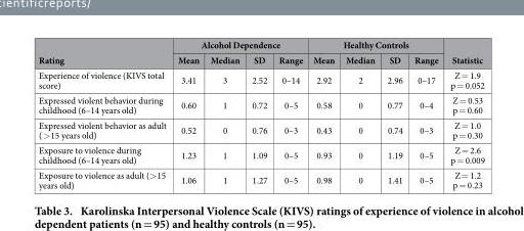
<table><thead><tr><td rowspan="2">Rating</td><td colspan="4">Alcohol Dependence</td><td colspan="4">Healthy Controls</td><td rowspan="2">Statistic</td></tr><tr><td>Mean</td><td>Median</td><td>SD</td><td>Range</td><td>Mean</td><td>Median</td><td>SD</td><td>Range</td></tr></thead><tbody><tr><td>Experience of violence (KIVS total score)</td><td>3.41</td><td>3</td><td>2.52</td><td>0–14</td><td>2.92</td><td>2</td><td>2.96</td><td>0–17</td><td>Z = 1.9 p = 0.052</td></tr><tr><td>Expressed violent behavior during childhood (6–14 years old)</td><td>0.60</td><td>1</td><td>0.72</td><td>0–5</td><td>0.58</td><td>0</td><td>0.77</td><td>0–4</td><td>Z = 0.53 p = 0.60</td></tr><tr><td>Expressed violent behavior as adult ( &gt; 15 years old)</td><td>0.52</td><td>0</td><td>0.76</td><td>0–3</td><td>0.43</td><td>0</td><td>0.74</td><td>0–3</td><td>Z = 1.0 p = 0.30</td></tr><tr><td>Exposure to violence during childhood (6–14 years old)</td><td>1.23</td><td>1</td><td>1.09</td><td>0–5</td><td>0.93</td><td>0</td><td>1.19</td><td>0–5</td><td>Z = 2.6 p = 0.009</td></tr><tr><td>Exposure to violence as adult (&gt; 15 years old)</td><td>1.06</td><td>1</td><td>1.27</td><td>0–5</td><td>0.98</td><td>0</td><td>1.41</td><td>0–5</td><td>Z = 1.2 p = 0.23</td></tr></tbody></table>